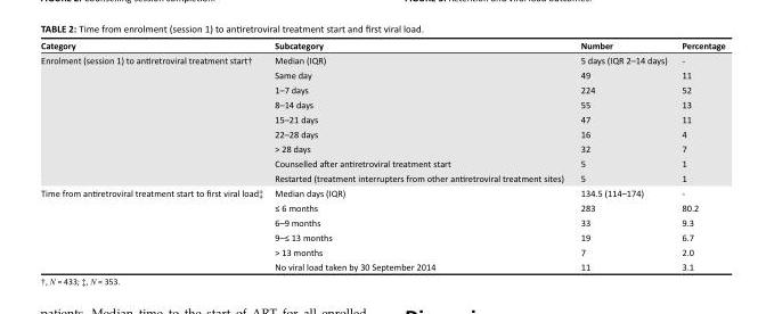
<table><thead><tr><td>Category</td><td>Subcategory</td><td>Number</td><td>Percentage</td></tr></thead><tbody><tr><td rowspan="9">Enrolment (session 1) to antiretroviral treatment start†</td><td>Median (IQR)</td><td>5 days (IQR 2–14 days)</td><td>-</td></tr><tr><td>Same day</td><td>49</td><td>11</td></tr><tr><td>1–7 days</td><td>224</td><td>52</td></tr><tr><td>8–14 days</td><td>55</td><td>13</td></tr><tr><td>15–21 days</td><td>47</td><td>11</td></tr><tr><td>22–28 days</td><td>16</td><td>4</td></tr><tr><td>&gt; 28 days</td><td>32</td><td>7</td></tr><tr><td>Counselled after antiretroviral treatment start</td><td>5</td><td>1</td></tr><tr><td>Restarted (treatment interrupters from other antiretroviral treatment sites)</td><td>5</td><td>1</td></tr><tr><td rowspan="6">Time from antiretroviral treatment start to first viral load‡</td><td>Median days (IQR)</td><td>134.5 (114–174)</td><td>-</td></tr><tr><td>≤ 6 months</td><td>283</td><td>80.2</td></tr><tr><td>6–9 months</td><td>33</td><td>9.3</td></tr><tr><td>9–≤ 13 months</td><td>19</td><td>6.7</td></tr><tr><td>&gt; 13 months</td><td>7</td><td>2.0</td></tr><tr><td>No viral load taken by 30 September 2014</td><td>11</td><td>3.1</td></tr></tbody></table>